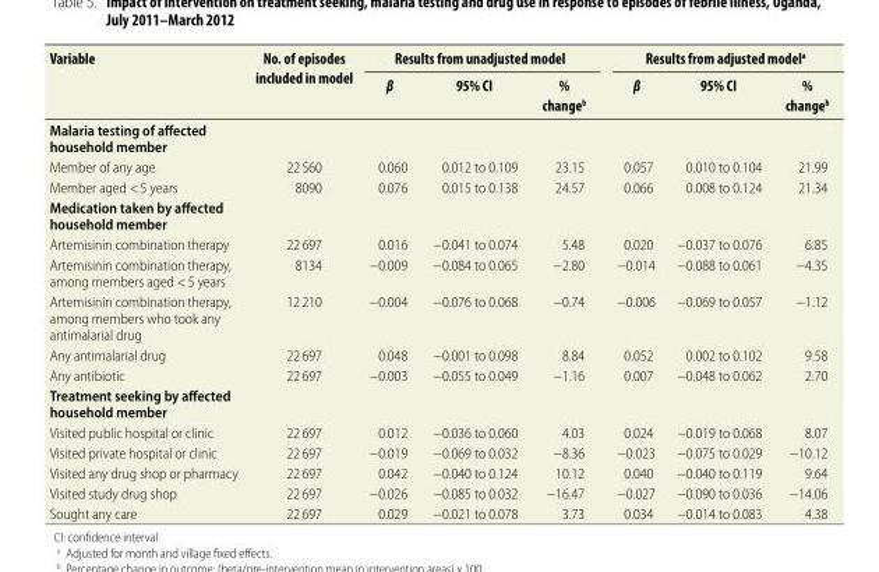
<table><thead><tr><td rowspan="2">Variable</td><td rowspan="2">No. of episodes included in model</td><td colspan="3">Results from unadjusted model</td><td colspan="3">Results from adjusted model<sup>a</sup></td></tr><tr><td>β</td><td>95% CI</td><td>% change<sup>b</sup></td><td>β</td><td>95% CI</td><td>% change<sup>b</sup></td></tr></thead><tbody><tr><td colspan="8">Malaria testing of affected household member</td></tr><tr><td>Member of any age</td><td>22 560</td><td>0.060</td><td>0.012 to 0.109</td><td>23.15</td><td>0.057</td><td>0.010 to 0.104</td><td>21.99</td></tr><tr><td>Member aged &lt; 5 years</td><td>8090</td><td>0.076</td><td>0.015 to 0.138</td><td>24.57</td><td>0.066</td><td>0.008 to 0.124</td><td>21.34</td></tr><tr><td colspan="8">Medication taken by affected household member</td></tr><tr><td>Artemisinin combination therapy</td><td>22 697</td><td>0.016</td><td>−0.041 to 0.074</td><td>5.48</td><td>0.020</td><td>−0.037 to 0.076</td><td>6.85</td></tr><tr><td>Artemisinin combination therapy, among members aged &lt; 5 years</td><td>8134</td><td>−0.009</td><td>−0.084 to 0.065</td><td>−2.80</td><td>−0.014</td><td>−0.088 to 0.061</td><td>−4.35</td></tr><tr><td>Artemisinin combination therapy, among members who took any antimalarial drug</td><td>12 210</td><td>−0.004</td><td>−0.076 to 0.068</td><td>−0.74</td><td>−0.006</td><td>−0.069 to 0.057</td><td>−1.12</td></tr><tr><td>Any antimalarial drug</td><td>22 697</td><td>0.048</td><td>−0.001 to 0.098</td><td>8.84</td><td>0.052</td><td>0.002 to 0.102</td><td>9.58</td></tr><tr><td>Any antibiotic</td><td>22 697</td><td>−0.003</td><td>−0.055 to 0.049</td><td>−1.16</td><td>0.007</td><td>−0.048 to 0.062</td><td>2.70</td></tr><tr><td colspan="8">Treatment seeking by affected household member</td></tr><tr><td>Visited public hospital or clinic</td><td>22 697</td><td>0.012</td><td>−0.036 to 0.060</td><td>4.03</td><td>0.024</td><td>−0.019 to 0.068</td><td>8.07</td></tr><tr><td>Visited private hospital or clinic</td><td>22 697</td><td>−0.019</td><td>−0.069 to 0.032</td><td>−8.36</td><td>−0.023</td><td>−0.075 to 0.029</td><td>−10.12</td></tr><tr><td>Visited any drug shop or pharmacy</td><td>22 697</td><td>0.042</td><td>−0.040 to 0.124</td><td>10.12</td><td>0.040</td><td>−0.040 to 0.119</td><td>9.64</td></tr><tr><td>Visited study drug shop</td><td>22 697</td><td>−0.026</td><td>−0.085 to 0.032</td><td>−16.47</td><td>−0.027</td><td>−0.090 to 0.036</td><td>−14.06</td></tr><tr><td>Sought any care</td><td>22 697</td><td>0.029</td><td>−0.021 to 0.078</td><td>3.73</td><td>0.034</td><td>−0.014 to 0.083</td><td>4.38</td></tr></tbody></table>